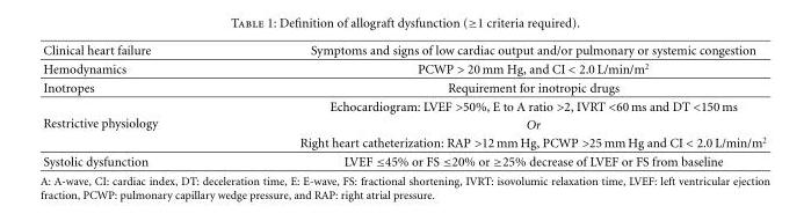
<table><thead><tr><td>Clinical heart failure</td><td>Symptoms and signs of low cardiac output and/or pulmonary or systemic congestion</td></tr></thead><tbody><tr><td>Hemodynamics</td><td>PCWP &gt; 20 mm Hg, and CI &lt; 2.0 L/min/m<sup>2</sup></td></tr><tr><td>Inotropes</td><td>Requirement for inotropic drugs</td></tr><tr><td rowspan="3">Restrictive physiology</td><td>Echocardiogram: LVEF &gt;50%, E to A ratio &gt;2, IVRT &lt;60 ms and DT &lt;150 ms</td></tr><tr><td>Or</td></tr><tr><td>Right heart catheterization: RAP &gt;12 mm Hg, PCWP &gt;25 mm Hg and CI &lt; 2.0 L/min/m<sup>2</sup></td></tr><tr><td>Systolic dysfunction</td><td>LVEF ≤45% or FS ≤20% or ≥25% decrease of LVEF or FS from baseline</td></tr></tbody></table>